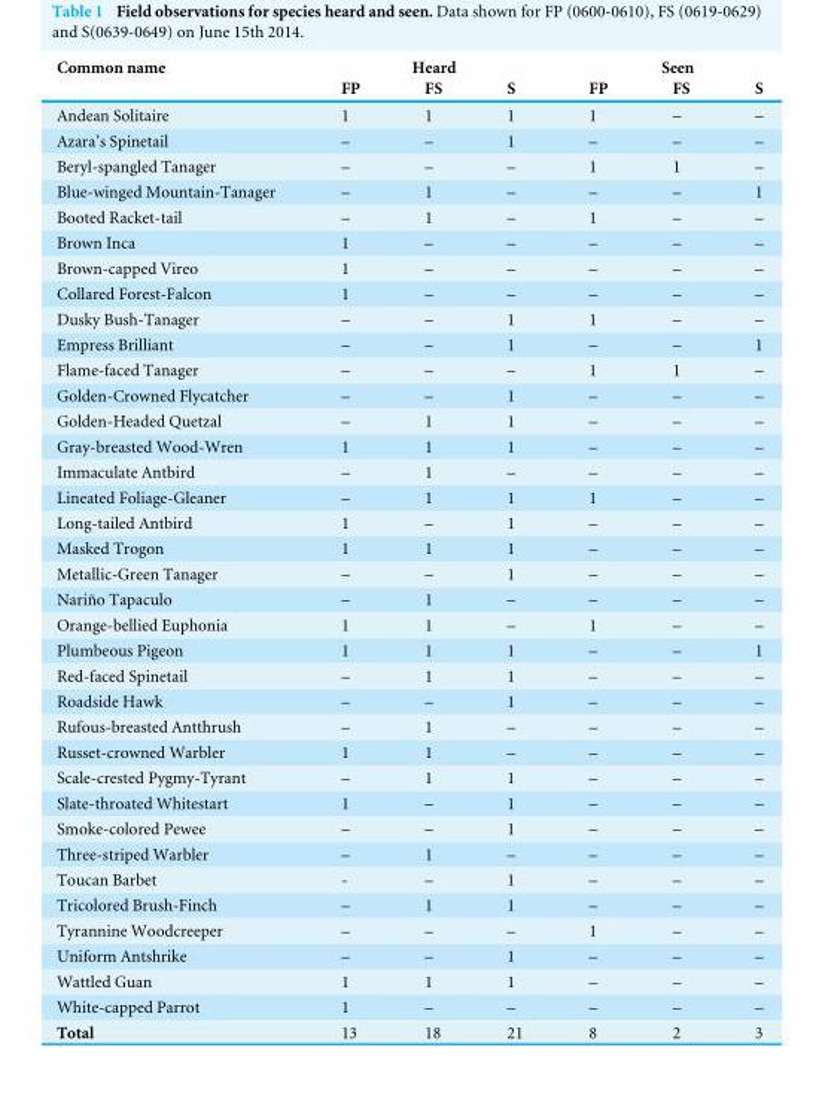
<table><thead><tr><td rowspan="2">Common name</td><td colspan="3">Heard</td><td colspan="3">Seen</td></tr><tr><td>FP</td><td>FS</td><td>S</td><td>FP</td><td>FS</td><td>S</td></tr></thead><tbody><tr><td>Andean Solitaire</td><td>1</td><td>1</td><td>1</td><td>1</td><td>–</td><td>–</td></tr><tr><td>Azara’s Spinetail</td><td>–</td><td>–</td><td>1</td><td>–</td><td>–</td><td>–</td></tr><tr><td>Beryl-spangled Tanager</td><td>–</td><td>–</td><td>–</td><td>1</td><td>1</td><td>–</td></tr><tr><td>Blue-winged Mountain-Tanager</td><td>–</td><td>1</td><td>–</td><td>–</td><td>–</td><td>1</td></tr><tr><td>Booted Racket-tail</td><td>–</td><td>1</td><td>–</td><td>1</td><td>–</td><td>–</td></tr><tr><td>Brown Inca</td><td>1</td><td>–</td><td>–</td><td>–</td><td>–</td><td>–</td></tr><tr><td>Brown-capped Vireo</td><td>1</td><td>–</td><td>–</td><td>–</td><td>–</td><td>–</td></tr><tr><td>Collared Forest-Falcon</td><td>1</td><td>–</td><td>–</td><td>–</td><td>–</td><td>–</td></tr><tr><td>Dusky Bush-Tanager</td><td>–</td><td>–</td><td>1</td><td>1</td><td>–</td><td>–</td></tr><tr><td>Empress Brilliant</td><td>–</td><td>–</td><td>1</td><td>–</td><td>–</td><td>1</td></tr><tr><td>Flame-faced Tanager</td><td>–</td><td>–</td><td>–</td><td>1</td><td>1</td><td>–</td></tr><tr><td>Golden-Crowned Flycatcher</td><td>–</td><td>–</td><td>1</td><td>–</td><td>–</td><td>–</td></tr><tr><td>Golden-Headed Quetzal</td><td>–</td><td>1</td><td>1</td><td>–</td><td>–</td><td>–</td></tr><tr><td>Gray-breasted Wood-Wren</td><td>1</td><td>1</td><td>1</td><td>–</td><td>–</td><td>–</td></tr><tr><td>Immaculate Antbird</td><td>–</td><td>1</td><td>–</td><td>–</td><td>–</td><td>–</td></tr><tr><td>Lineated Foliage-Gleaner</td><td>–</td><td>1</td><td>1</td><td>1</td><td>–</td><td>–</td></tr><tr><td>Long-tailed Antbird</td><td>1</td><td>–</td><td>1</td><td>–</td><td>–</td><td>–</td></tr><tr><td>Masked Trogon</td><td>1</td><td>1</td><td>1</td><td>–</td><td>–</td><td>–</td></tr><tr><td>Metallic-Green Tanager</td><td>–</td><td>–</td><td>1</td><td>–</td><td>–</td><td>–</td></tr><tr><td>Nariño Tapaculo</td><td>–</td><td>1</td><td>–</td><td>–</td><td>–</td><td>–</td></tr><tr><td>Orange-bellied Euphonia</td><td>1</td><td>1</td><td>–</td><td>1</td><td>–</td><td>–</td></tr><tr><td>Plumbeous Pigeon</td><td>1</td><td>1</td><td>1</td><td>–</td><td>–</td><td>1</td></tr><tr><td>Red-faced Spinetail</td><td>–</td><td>1</td><td>1</td><td>–</td><td>–</td><td>–</td></tr><tr><td>Roadside Hawk</td><td>–</td><td>–</td><td>1</td><td>–</td><td>–</td><td>–</td></tr><tr><td>Rufous-breasted Antthrush</td><td>–</td><td>1</td><td>–</td><td>–</td><td>–</td><td>–</td></tr><tr><td>Russet-crowned Warbler</td><td>1</td><td>1</td><td>–</td><td>–</td><td>–</td><td>–</td></tr><tr><td>Scale-crested Pygmy-Tyrant</td><td>–</td><td>1</td><td>1</td><td>–</td><td>–</td><td>–</td></tr><tr><td>Slate-throated Whitestart</td><td>1</td><td>–</td><td>1</td><td>–</td><td>–</td><td>–</td></tr><tr><td>Smoke-colored Pewee</td><td>–</td><td>–</td><td>1</td><td>–</td><td>–</td><td>–</td></tr><tr><td>Three-striped Warbler</td><td>–</td><td>1</td><td>–</td><td>–</td><td>–</td><td>–</td></tr><tr><td>Toucan Barbet</td><td>-</td><td>–</td><td>1</td><td>–</td><td>–</td><td>–</td></tr><tr><td>Tricolored Brush-Finch</td><td>–</td><td>1</td><td>1</td><td>–</td><td>–</td><td>–</td></tr><tr><td>Tyrannine Woodcreeper</td><td>–</td><td>–</td><td>–</td><td>1</td><td>–</td><td>–</td></tr><tr><td>Uniform Antshrike</td><td>–</td><td>–</td><td>1</td><td>–</td><td>–</td><td>–</td></tr><tr><td>Wattled Guan</td><td>1</td><td>1</td><td>1</td><td>–</td><td>–</td><td>–</td></tr><tr><td>White-capped Parrot</td><td>1</td><td>–</td><td>–</td><td>–</td><td>–</td><td>–</td></tr><tr><td>Total</td><td>13</td><td>18</td><td>21</td><td>8</td><td>2</td><td>3</td></tr></tbody></table>